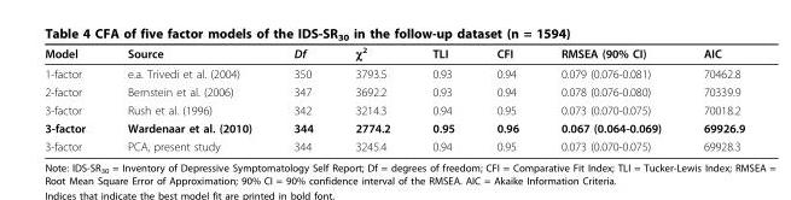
<table><thead><tr><td>Model</td><td>Source</td><td>Df</td><td>χ<sup>2</sup></td><td>TLI</td><td>CFI</td><td>RMSEA (90% CI)</td><td>AIC</td></tr></thead><tbody><tr><td>1-factor</td><td>e.a. Trivedi et al. (2004)</td><td>350</td><td>3793.5</td><td>0.93</td><td>0.94</td><td>0.079 (0.076-0.081)</td><td>70462.8</td></tr><tr><td>2-factor</td><td>Bernstein et al. (2006)</td><td>347</td><td>3692.2</td><td>0.93</td><td>0.94</td><td>0.078 (0.076-0.080)</td><td>70339.9</td></tr><tr><td>3-factor</td><td>Rush et al. (1996)</td><td>342</td><td>3214.3</td><td>0.94</td><td>0.95</td><td>0.073 (0.070-0.075)</td><td>70018.2</td></tr><tr><td>3-factor</td><td>Wardenaar et al. (2010)</td><td>344</td><td>2774.2</td><td>0.95</td><td>0.96</td><td>0.067 (0.064-0.069)</td><td>69926.9</td></tr><tr><td>3-factor</td><td>PCA, present study</td><td>344</td><td>3245.4</td><td>0.94</td><td>0.95</td><td>0.073 (0.070-0.075)</td><td>69928.3</td></tr></tbody></table>